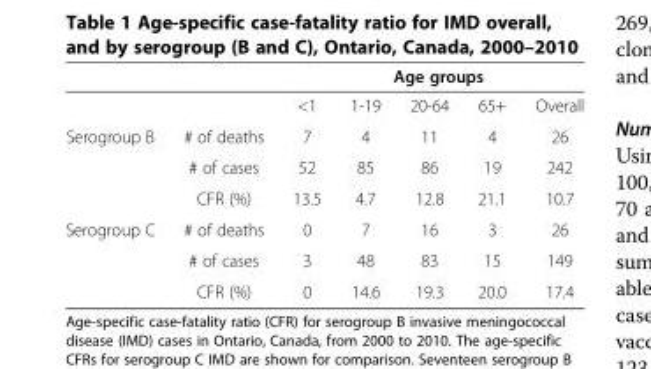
<table><thead><tr><td rowspan="2"></td><td rowspan="2"></td><td colspan="5">Age groups</td></tr><tr><td>&lt;1</td><td>1-19</td><td>20-64</td><td>65+</td><td>Overall</td></tr></thead><tbody><tr><td rowspan="3">Serogroup B</td><td># of deaths</td><td>7</td><td>4</td><td>11</td><td>4</td><td>26</td></tr><tr><td># of cases</td><td>52</td><td>85</td><td>86</td><td>19</td><td>242</td></tr><tr><td>CFR (%)</td><td>13.5</td><td>4.7</td><td>12.8</td><td>21.1</td><td>10.7</td></tr><tr><td rowspan="3">Serogroup C</td><td># of deaths</td><td>0</td><td>7</td><td>16</td><td>3</td><td>26</td></tr><tr><td># of cases</td><td>3</td><td>48</td><td>83</td><td>15</td><td>149</td></tr><tr><td>CFR (%)</td><td>0</td><td>14.6</td><td>19.3</td><td>20.0</td><td>17.4</td></tr></tbody></table>